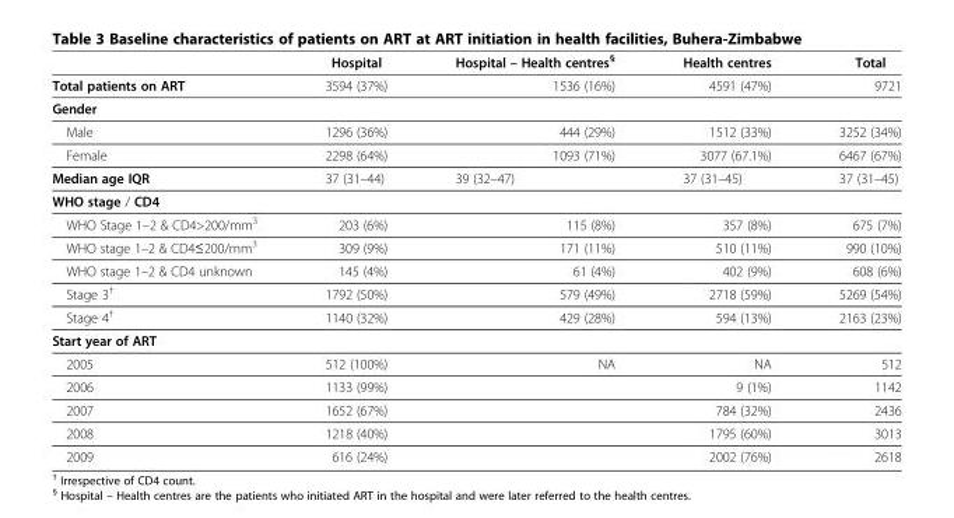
<table><thead><tr><td></td><td>Hospital</td><td>Hospital – Health centres§</td><td>Health centres</td><td>Total</td></tr></thead><tbody><tr><td>Total patients on ART</td><td>3594 (37%)</td><td>1536 (16%)</td><td>4591 (47%)</td><td>9721</td></tr><tr><td colspan="5">Gender</td></tr><tr><td>Male</td><td>1296 (36%)</td><td>444 (29%)</td><td>1512 (33%)</td><td>3252 (34%)</td></tr><tr><td>Female</td><td>2298 (64%)</td><td>1093 (71%)</td><td>3077 (67.1%)</td><td>6467 (67%)</td></tr><tr><td>Median age IQR</td><td>37 (31–44)</td><td>39 (32–47)</td><td>37 (31–45)</td><td>37 (31–45)</td></tr><tr><td colspan="5">WHO stage / CD4</td></tr><tr><td>WHO Stage 1–2 &amp; CD4&gt;200/mm<sup>3</sup></td><td>203 (6%)</td><td>115 (8%)</td><td>357 (8%)</td><td>675 (7%)</td></tr><tr><td>WHO stage 1–2 &amp; CD4≤200/mm<sup>3</sup></td><td>309 (9%)</td><td>171 (11%)</td><td>510 (11%)</td><td>990 (10%)</td></tr><tr><td>WHO stage 1–2 &amp; CD4 unknown</td><td>145 (4%)</td><td>61 (4%)</td><td>402 (9%)</td><td>608 (6%)</td></tr><tr><td>Stage 3<sup>†</sup></td><td>1792 (50%)</td><td>579 (49%)</td><td>2718 (59%)</td><td>5269 (54%)</td></tr><tr><td>Stage 4<sup>†</sup></td><td>1140 (32%)</td><td>429 (28%)</td><td>594 (13%)</td><td>2163 (23%)</td></tr><tr><td colspan="5">Start year of ART</td></tr><tr><td>2005</td><td>512 (100%)</td><td>NA</td><td>NA</td><td>512</td></tr><tr><td>2006</td><td>1133 (99%)</td><td></td><td>9 (1%)</td><td>1142</td></tr><tr><td>2007</td><td>1652 (67%)</td><td></td><td>784 (32%)</td><td>2436</td></tr><tr><td>2008</td><td>1218 (40%)</td><td></td><td>1795 (60%)</td><td>3013</td></tr><tr><td>2009</td><td>616 (24%)</td><td></td><td>2002 (76%)</td><td>2618</td></tr></tbody></table>